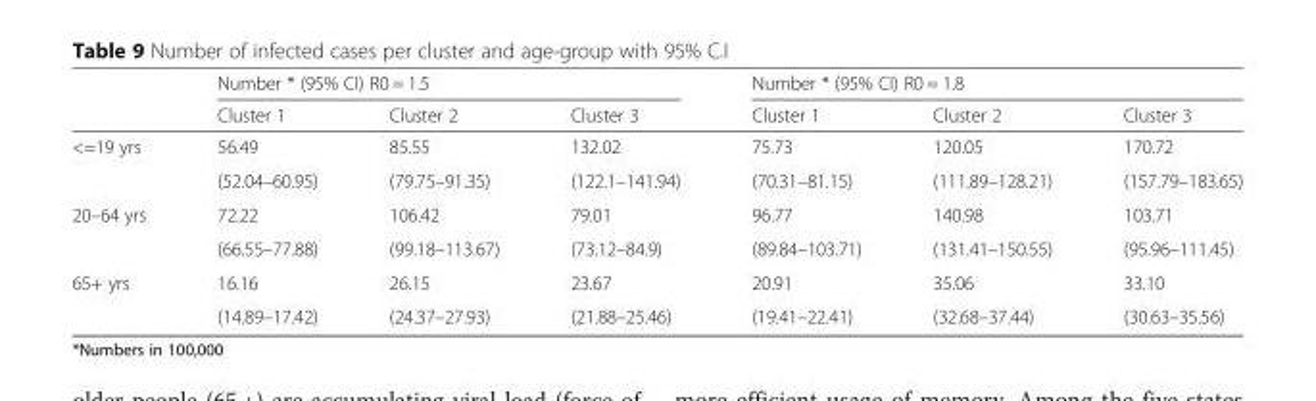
<table><thead><tr><td rowspan="2"></td><td colspan="3">Number * (95% CI) R0 = 1.5</td><td colspan="3">Number * (95% CI) R0 = 1.8</td></tr><tr><td>Cluster 1</td><td>Cluster 2</td><td>Cluster 3</td><td>Cluster 1</td><td>Cluster 2</td><td>Cluster 3</td></tr></thead><tbody><tr><td rowspan="2">&lt;=19 yrs</td><td>56.49</td><td>85.55</td><td>132.02</td><td>75.73</td><td>120.05</td><td>170.72</td></tr><tr><td>(52.04–60.95)</td><td>(79.75–91.35)</td><td>(122.1–141.94)</td><td>(70.31–81.15)</td><td>(111.89–128.21)</td><td>(157.79–183.65)</td></tr><tr><td rowspan="2">20–64 yrs</td><td>72.22</td><td>106.42</td><td>79.01</td><td>96.77</td><td>140.98</td><td>103.71</td></tr><tr><td>(66.55–77.88)</td><td>(99.18–113.67)</td><td>(73.12–84.9)</td><td>(89.84–103.71)</td><td>(131.41–150.55)</td><td>(95.96–111.45)</td></tr><tr><td rowspan="2">65+ yrs</td><td>16.16</td><td>26.15</td><td>23.67</td><td>20.91</td><td>35.06</td><td>33.10</td></tr><tr><td>(14.89–17.42)</td><td>(24.37–27.93)</td><td>(21.88–25.46)</td><td>(19.41–22.41)</td><td>(32.68–37.44)</td><td>(30.63–35.56)</td></tr></tbody></table>